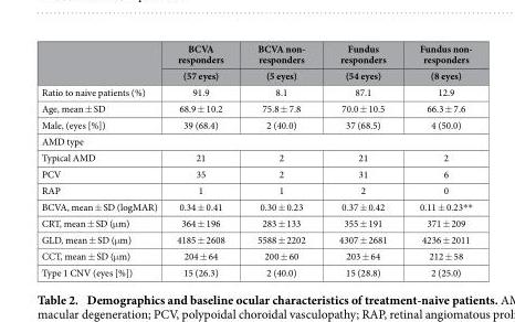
<table><thead><tr><td rowspan="2"></td><td rowspan="2">BCVA responders (57 eyes)</td><td rowspan="2">BCVA non- responders (5 eyes)</td><td rowspan="2">Fundus responders (54 eyes)</td><td rowspan="2">Fundus non- responders (8 eyes)</td></tr><tr></tr></thead><tbody><tr><td>Ratio to naive patients (%)</td><td>91.9</td><td>8.1</td><td>87.1</td><td>12.9</td></tr><tr><td>Age, mean ± SD</td><td>68.9 ± 10.2</td><td>75.8 ± 7.8</td><td>70.0 ± 10.5</td><td>66.3 ± 7.6</td></tr><tr><td>Male, (eyes [%])</td><td>39 (68.4)</td><td>2 (40.0)</td><td>37 (68.5)</td><td>4 (50.0)</td></tr><tr><td colspan="5">AMD type</td></tr><tr><td>Typical AMD</td><td>21</td><td>2</td><td>21</td><td>2</td></tr><tr><td>PCV</td><td>35</td><td>2</td><td>31</td><td>6</td></tr><tr><td>RAP</td><td>1</td><td>1</td><td>2</td><td>0</td></tr><tr><td>BCVA, mean ± SD (logMAR)</td><td>0.34 ± 0.41</td><td>0.30 ± 0.23</td><td>0.37 ± 0.42</td><td>0.11 ± 0.23* *</td></tr><tr><td>CRT, mean ± SD (μ m)</td><td>364 ± 196</td><td>283 ± 133</td><td>355 ± 191</td><td>371 ± 209</td></tr><tr><td>GLD, mean ± SD (μ m)</td><td>4185 ± 2608</td><td>5588 ± 2202</td><td>4307 ± 2681</td><td>4236 ± 2011</td></tr><tr><td>CCT, mean ± SD (μ m)</td><td>204 ± 64</td><td>200 ± 60</td><td>203 ± 64</td><td>212 ± 58</td></tr><tr><td>Type 1 CNV (eyes [%])</td><td>15 (26.3)</td><td>2 (40.0)</td><td>15 (28.8)</td><td>2 (25.0)</td></tr></tbody></table>